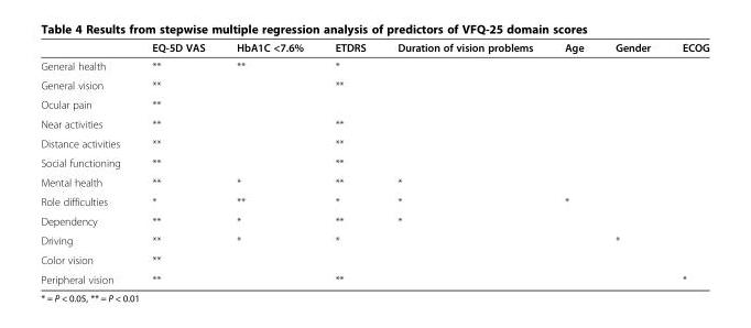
<table><thead><tr><td></td><td>EQ-5D VAS</td><td>HbA1C &lt;7.6%</td><td>ETDRS</td><td>Duration of vision problems</td><td>Age</td><td>Gender</td><td>ECOG</td></tr></thead><tbody><tr><td>General health</td><td>**</td><td>**</td><td>*</td><td></td><td></td><td></td><td></td></tr><tr><td>General vision</td><td>**</td><td></td><td>**</td><td></td><td></td><td></td><td></td></tr><tr><td>Ocular pain</td><td>**</td><td></td><td></td><td></td><td></td><td></td><td></td></tr><tr><td>Near activities</td><td>**</td><td></td><td>**</td><td></td><td></td><td></td><td></td></tr><tr><td>Distance activities</td><td>**</td><td></td><td>**</td><td></td><td></td><td></td><td></td></tr><tr><td>Social functioning</td><td>**</td><td></td><td>**</td><td></td><td></td><td></td><td></td></tr><tr><td>Mental health</td><td>**</td><td>*</td><td>**</td><td>*</td><td></td><td></td><td></td></tr><tr><td>Role difficulties</td><td>*</td><td>**</td><td>*</td><td>*</td><td>*</td><td></td><td></td></tr><tr><td>Dependency</td><td>**</td><td>*</td><td>**</td><td>*</td><td></td><td></td><td></td></tr><tr><td>Driving</td><td>**</td><td>*</td><td>*</td><td></td><td></td><td>*</td><td></td></tr><tr><td>Color vision</td><td>**</td><td></td><td></td><td></td><td></td><td></td><td></td></tr><tr><td>Peripheral vision</td><td>**</td><td></td><td>**</td><td></td><td></td><td></td><td>*</td></tr></tbody></table>